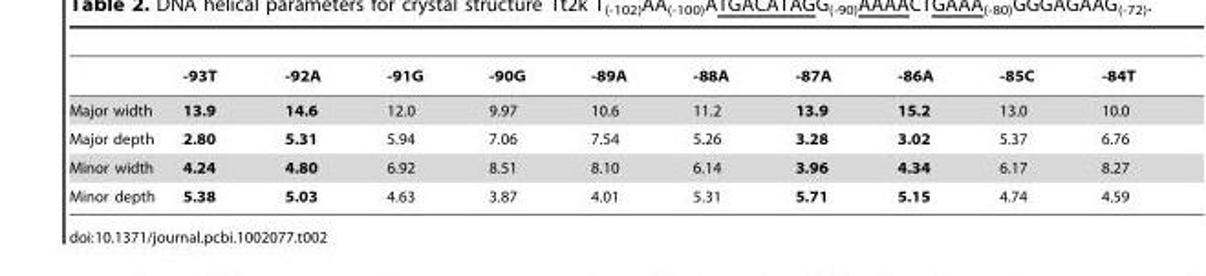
<table><thead><tr><td></td><td>-93T</td><td>-92A</td><td>-91G</td><td>-90G</td><td>-89A</td><td>-88A</td><td>-87A</td><td>-86A</td><td>-85C</td><td>-84T</td></tr></thead><tbody><tr><td>Major width</td><td>13.9</td><td>14.6</td><td>12.0</td><td>9.97</td><td>10.6</td><td>11.2</td><td>13.9</td><td>15.2</td><td>13.0</td><td>10.0</td></tr><tr><td>Major depth</td><td>2.80</td><td>5.31</td><td>5.94</td><td>7.06</td><td>7.54</td><td>5.26</td><td>3.28</td><td>3.02</td><td>5.37</td><td>6.76</td></tr><tr><td>Minor width</td><td>4.24</td><td>4.80</td><td>6.92</td><td>8.51</td><td>8.10</td><td>6.14</td><td>3.96</td><td>4.34</td><td>6.17</td><td>8.27</td></tr><tr><td>Minor depth</td><td>5.38</td><td>5.03</td><td>4.63</td><td>3.87</td><td>4.01</td><td>5.31</td><td>5.71</td><td>5.15</td><td>4.74</td><td>4.59</td></tr></tbody></table>